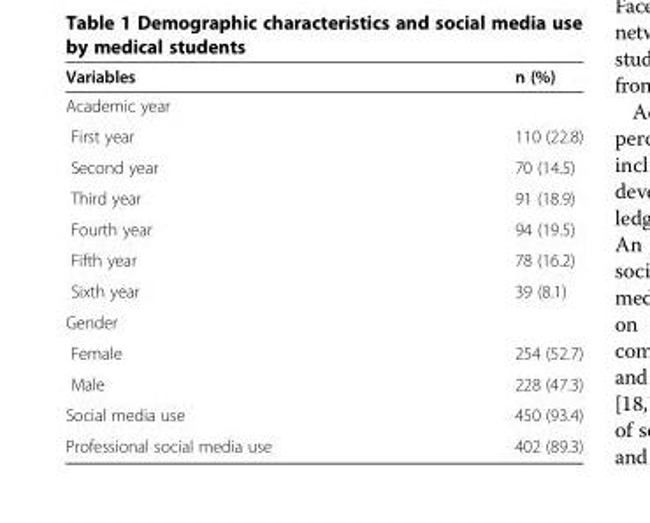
<table><thead><tr><td>Variables</td><td>n (%)</td></tr></thead><tbody><tr><td colspan="2">Academic year</td></tr><tr><td>First year</td><td>110 (22.8)</td></tr><tr><td>Second year</td><td>70 (14.5)</td></tr><tr><td>Third year</td><td>91 (18.9)</td></tr><tr><td>Fourth year</td><td>94 (19.5)</td></tr><tr><td>Fifth year</td><td>78 (16.2)</td></tr><tr><td>Sixth year</td><td>39 (8.1)</td></tr><tr><td colspan="2">Gender</td></tr><tr><td>Female</td><td>254 (52.7)</td></tr><tr><td>Male</td><td>228 (47.3)</td></tr><tr><td>Social media use</td><td>450 (93.4)</td></tr><tr><td>Professional social media use</td><td>402 (89.3)</td></tr></tbody></table>